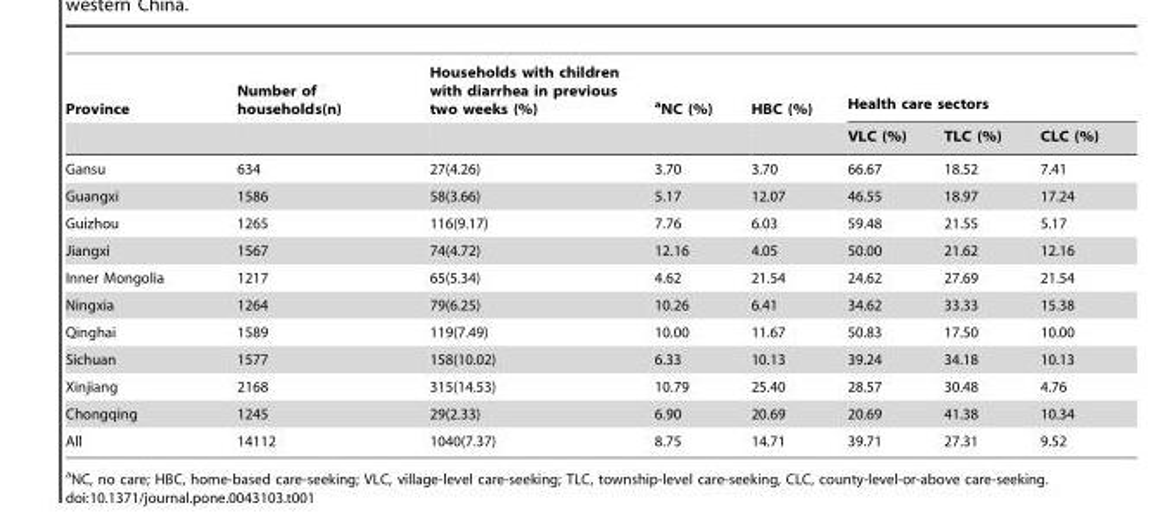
<table><thead><tr><td rowspan="2">Province</td><td rowspan="2">Number of households(n)</td><td rowspan="2">Households with children with diarrhea in previous two weeks (%)</td><td rowspan="2">aNC (%)</td><td rowspan="2">HBC (%)</td><td colspan="3">Health care sectors</td></tr><tr><td>VLC (%)</td><td>TLC (%)</td><td>CLC (%)</td></tr></thead><tbody><tr><td>Gansu</td><td>634</td><td>27(4.26)</td><td>3.70</td><td>3.70</td><td>66.67</td><td>18.52</td><td>7.41</td></tr><tr><td>Guangxi</td><td>1586</td><td>58(3.66)</td><td>5.17</td><td>12.07</td><td>46.55</td><td>18.97</td><td>17.24</td></tr><tr><td>Guizhou</td><td>1265</td><td>116(9.17)</td><td>7.76</td><td>6.03</td><td>59.48</td><td>21.55</td><td>5.17</td></tr><tr><td>Jiangxi</td><td>1567</td><td>74(4.72)</td><td>12.16</td><td>4.05</td><td>50.00</td><td>21.62</td><td>12.16</td></tr><tr><td>Inner Mongolia</td><td>1217</td><td>65(5.34)</td><td>4.62</td><td>21.54</td><td>24.62</td><td>27.69</td><td>21.54</td></tr><tr><td>Ningxia</td><td>1264</td><td>79(6.25)</td><td>10.26</td><td>6.41</td><td>34.62</td><td>33.33</td><td>15.38</td></tr><tr><td>Qinghai</td><td>1589</td><td>119(7.49)</td><td>10.00</td><td>11.67</td><td>50.83</td><td>17.50</td><td>10.00</td></tr><tr><td>Sichuan</td><td>1577</td><td>158(10.02)</td><td>6.33</td><td>10.13</td><td>39.24</td><td>34.18</td><td>10.13</td></tr><tr><td>Xinjiang</td><td>2168</td><td>315(14.53)</td><td>10.79</td><td>25.40</td><td>28.57</td><td>30.48</td><td>4.76</td></tr><tr><td>Chongqing</td><td>1245</td><td>29(2.33)</td><td>6.90</td><td>20.69</td><td>20.69</td><td>41.38</td><td>10.34</td></tr><tr><td>All</td><td>14112</td><td>1040(7.37)</td><td>8.75</td><td>14.71</td><td>39.71</td><td>27.31</td><td>9.52</td></tr></tbody></table>